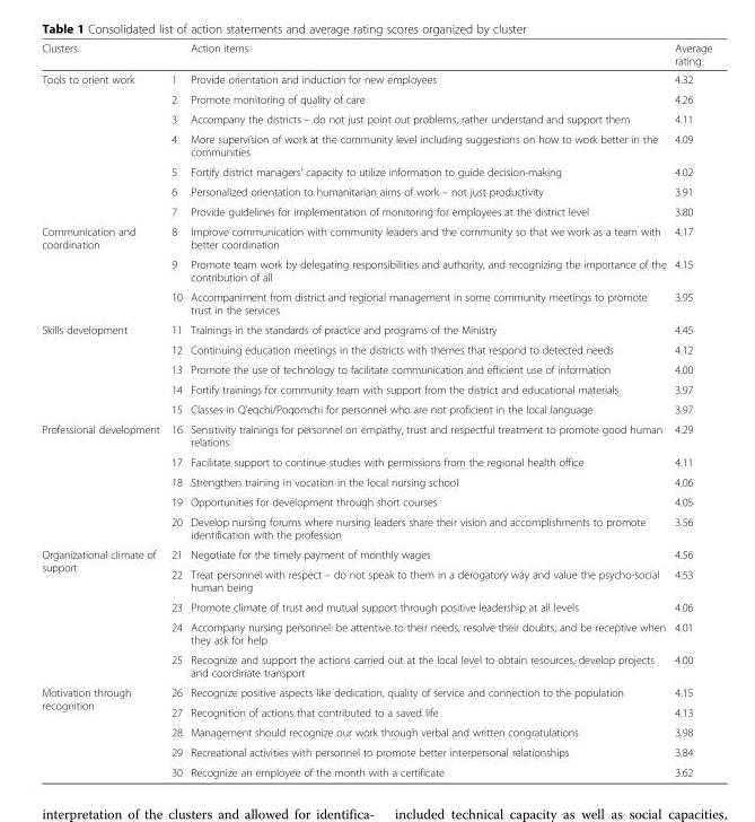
<table><thead><tr><td>Clusters</td><td></td><td>Action items</td><td>Average rating</td></tr></thead><tbody><tr><td rowspan="7">Tools to orient work</td><td>1</td><td>Provide orientation and induction for new employees</td><td>4.32</td></tr><tr><td>2</td><td>Promote monitoring of quality of care</td><td>4.26</td></tr><tr><td>3</td><td>Accompany the districts – do not just point out problems, rather understand and support them</td><td>4.11</td></tr><tr><td>4</td><td>More supervision of work at the community level including suggestions on how to work better in the communities</td><td>4.09</td></tr><tr><td>5</td><td>Fortify district managers’ capacity to utilize information to guide decision-making</td><td>4.02</td></tr><tr><td>6</td><td>Personalized orientation to humanitarian aims of work – not just productivity</td><td>3.91</td></tr><tr><td>7</td><td>Provide guidelines for implementation of monitoring for employees at the district level</td><td>3.80</td></tr><tr><td rowspan="3">Communication and coordination</td><td>8</td><td>Improve communication with community leaders and the community so that we work as a team with better coordination</td><td>4.17</td></tr><tr><td>9</td><td>Promote team work by delegating responsibilities and authority, and recognizing the importance of the contribution of all</td><td>4.15</td></tr><tr><td>10</td><td>Accompaniment from district and regional management in some community meetings to promote trust in the services</td><td>3.95</td></tr><tr><td rowspan="5">Skills development</td><td>11</td><td>Trainings in the standards of practice and programs of the Ministry</td><td>4.45</td></tr><tr><td>12</td><td>Continuing education meetings in the districts with themes that respond to detected needs</td><td>4.12</td></tr><tr><td>13</td><td>Promote the use of technology to facilitate communication and efficient use of information</td><td>4.00</td></tr><tr><td>14</td><td>Fortify trainings for community team with support from the district and educational materials</td><td>3.97</td></tr><tr><td>15</td><td>Classes in Q’eqchi/Poqomchi for personnel who are not proficient in the local language</td><td>3.97</td></tr><tr><td rowspan="5">Professional development</td><td>16</td><td>Sensitivity trainings for personnel on empathy, trust and respectful treatment to promote good human relations</td><td>4.29</td></tr><tr><td>17</td><td>Facilitate support to continue studies with permissions from the regional health office</td><td>4.11</td></tr><tr><td>18</td><td>Strengthen training in vocation in the local nursing school</td><td>4.06</td></tr><tr><td>19</td><td>Opportunities for development through short courses</td><td>4.05</td></tr><tr><td>20</td><td>Develop nursing forums where nursing leaders share their vision and accomplishments to promote identification with the profession</td><td>3.56</td></tr><tr><td rowspan="5">Organizational climate of support</td><td>21</td><td>Negotiate for the timely payment of monthly wages</td><td>4.56</td></tr><tr><td>22</td><td>Treat personnel with respect – do not speak to them in a derogatory way and value the psycho-social human being</td><td>4.53</td></tr><tr><td>23</td><td>Promote climate of trust and mutual support through positive leadership at all levels</td><td>4.06</td></tr><tr><td>24</td><td>Accompany nursing personnel: be attentive to their needs, resolve their doubts, and be receptive when they ask for help</td><td>4.01</td></tr><tr><td>25</td><td>Recognize and support the actions carried out at the local level to obtain resources, develop projects and coordinate transport</td><td>4.00</td></tr><tr><td rowspan="5">Motivation through recognition</td><td>26</td><td>Recognize positive aspects like dedication, quality of service and connection to the population</td><td>4.15</td></tr><tr><td>27</td><td>Recognition of actions that contributed to a saved life</td><td>4.13</td></tr><tr><td>28</td><td>Management should recognize our work through verbal and written congratulations</td><td>3.98</td></tr><tr><td>29</td><td>Recreational activities with personnel to promote better interpersonal relationships</td><td>3.84</td></tr><tr><td>30</td><td>Recognize an employee of the month with a certificate</td><td>3.62</td></tr></tbody></table>